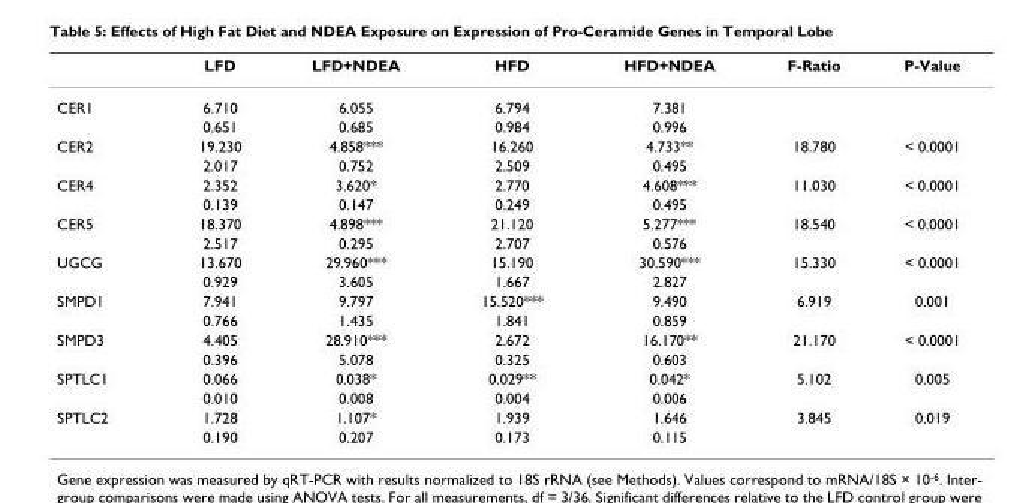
<table><thead><tr><td></td><td>LFD</td><td>LFD+NDEA</td><td>HFD</td><td>HFD+NDEA</td><td>F-Ratio</td><td>P-Value</td></tr></thead><tbody><tr><td rowspan="2">CER1</td><td>6.710</td><td>6.055</td><td>6.794</td><td>7.381</td><td></td><td></td></tr><tr><td>0.651</td><td>0.685</td><td>0.984</td><td>0.996</td><td></td><td></td></tr><tr><td rowspan="2">CER2</td><td>19.230</td><td>4.858***</td><td>16.260</td><td>4.733**</td><td>18.780</td><td>&lt; 0.0001</td></tr><tr><td>2.017</td><td>0.752</td><td>2.509</td><td>0.495</td><td></td><td></td></tr><tr><td rowspan="2">CER4</td><td>2.352</td><td>3.620*</td><td>2.770</td><td>4.608***</td><td>11.030</td><td>&lt; 0.0001</td></tr><tr><td>0.139</td><td>0.147</td><td>0.249</td><td>0.495</td><td></td><td></td></tr><tr><td rowspan="2">CER5</td><td>18.370</td><td>4.898***</td><td>21.120</td><td>5.277***</td><td>18.540</td><td>&lt; 0.0001</td></tr><tr><td>2.517</td><td>0.295</td><td>2.707</td><td>0.576</td><td></td><td></td></tr><tr><td rowspan="2">UGCG</td><td>13.670</td><td>29.960***</td><td>15.190</td><td>30.590***</td><td>15.330</td><td>&lt; 0.0001</td></tr><tr><td>0.929</td><td>3.605</td><td>1.667</td><td>2.827</td><td></td><td></td></tr><tr><td rowspan="2">SMPD1</td><td>7.941</td><td>9.797</td><td>15.520***</td><td>9.490</td><td>6.919</td><td>0.001</td></tr><tr><td>0.766</td><td>1.435</td><td>1.841</td><td>0.859</td><td></td><td></td></tr><tr><td rowspan="2">SMPD3</td><td>4.405</td><td>28.910***</td><td>2.672</td><td>16.170**</td><td>21.170</td><td>&lt; 0.0001</td></tr><tr><td>0.396</td><td>5.078</td><td>0.325</td><td>0.603</td><td></td><td></td></tr><tr><td rowspan="2">SPTLC1</td><td>0.066</td><td>0.038*</td><td>0.029**</td><td>0.042*</td><td>5.102</td><td>0.005</td></tr><tr><td>0.010</td><td>0.008</td><td>0.004</td><td>0.006</td><td></td><td></td></tr><tr><td rowspan="2">SPTLC2</td><td>1.728</td><td>1.107*</td><td>1.939</td><td>1.646</td><td>3.845</td><td>0.019</td></tr><tr><td>0.190</td><td>0.207</td><td>0.173</td><td>0.115</td><td></td><td></td></tr></tbody></table>